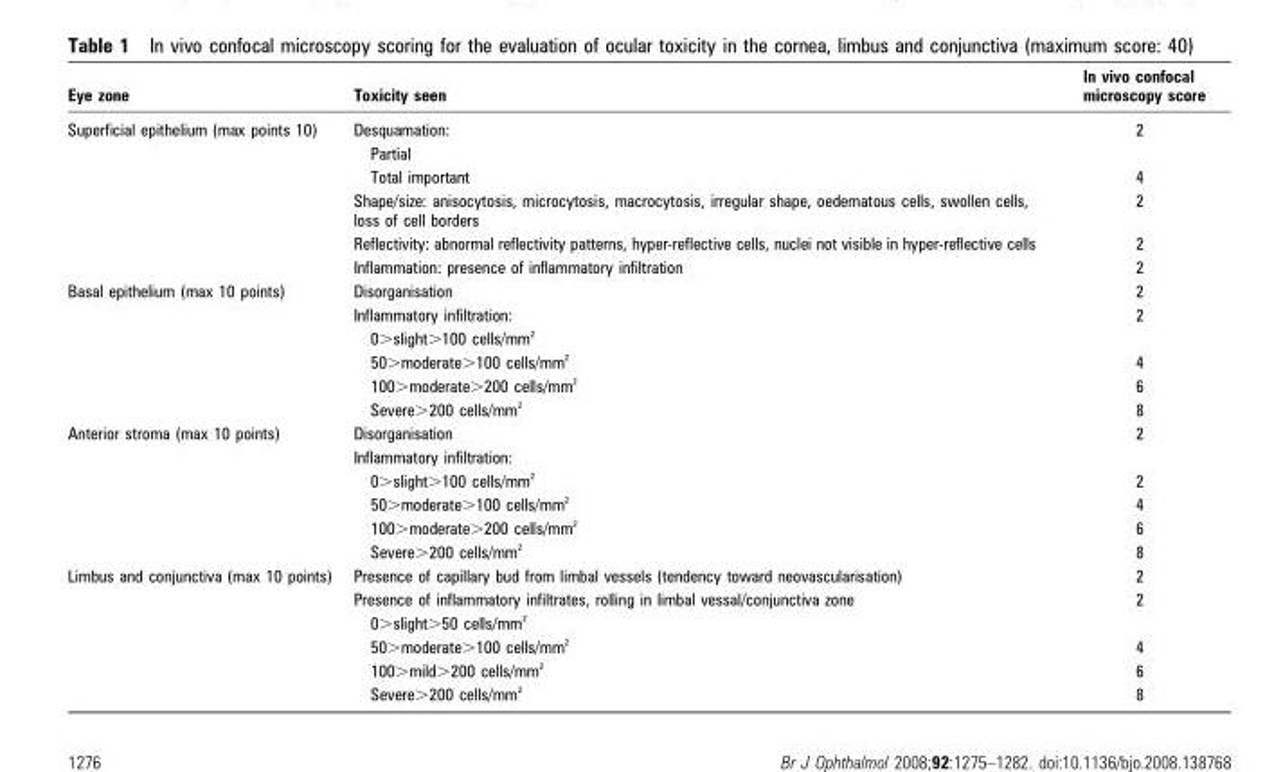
<table><thead><tr><td>Eye zone</td><td>Toxicity seen</td><td>In vivo confocal microscopy score</td></tr></thead><tbody><tr><td rowspan="6">Superficial epithelium (max points 10)</td><td>Desquamation:</td><td>2</td></tr><tr><td>Partial</td><td></td></tr><tr><td>Total important</td><td>4</td></tr><tr><td>Shape/size: anisocytosis, microcytosis, macrocytosis, irregular shape, oedematous cells, swollen cells, loss of cell borders</td><td>2</td></tr><tr><td>Reflectivity: abnormal reflectivity patterns, hyper-reflective cells, nuclei not visible in hyper-reflective cells</td><td>2</td></tr><tr><td>Inflammation: presence of inflammatory infiltration</td><td>2</td></tr><tr><td rowspan="6">Basal epithelium (max 10 points)</td><td>Disorganisation</td><td>2</td></tr><tr><td>Inflammatory infiltration:</td><td>2</td></tr><tr><td>0&gt;slight&gt;100 cells/mm <sup>2</sup></td><td></td></tr><tr><td>50&gt;moderate&gt;100 cells/mm <sup>2</sup></td><td>4</td></tr><tr><td>100&gt;moderate&gt;200 cells/mm <sup>2</sup></td><td>6</td></tr><tr><td>Severe&gt;200 cells/mm <sup>2</sup></td><td>8</td></tr><tr><td rowspan="6">Anterior stroma (max 10 points)</td><td>Disorganisation</td><td>2</td></tr><tr><td>Inflammatory infiltration:</td><td></td></tr><tr><td>0&gt;slight&gt;100 cells/mm <sup>2</sup></td><td>2</td></tr><tr><td>50&gt;moderate&gt;100 cells/mm <sup>2</sup></td><td>4</td></tr><tr><td>100&gt;moderate&gt;200 cells/mm <sup>2</sup></td><td>6</td></tr><tr><td>Severe&gt;200 cells/mm <sup>2</sup></td><td>8</td></tr><tr><td rowspan="6">Limbus and conjunctiva (max 10 points)</td><td>Presence of capillary bud from limbal vessels (tendency toward neovascularisation)</td><td>2</td></tr><tr><td>Presence of inflammatory infiltrates, rolling in limbal vessal/conjunctiva zone</td><td>2</td></tr><tr><td>0&gt;slight&gt;50 cells/mm <sup>2</sup></td><td></td></tr><tr><td>50&gt;moderate&gt;100 cells/mm <sup>2</sup></td><td>4</td></tr><tr><td>100&gt;mild&gt;200 cells/mm <sup>2</sup></td><td>6</td></tr><tr><td>Severe&gt;200 cells/mm <sup>2</sup></td><td>8</td></tr></tbody></table>